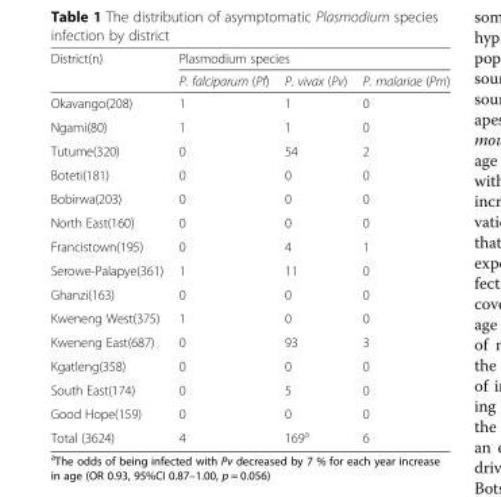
<table><thead><tr><td rowspan="2">District(n)</td><td colspan="3">Plasmodium species</td></tr><tr><td>P. falciparum (Pf)</td><td>P. vivax (Pv)</td><td>P. malariae (Pm)</td></tr></thead><tbody><tr><td>Okavango(208)</td><td>1</td><td>1</td><td>0</td></tr><tr><td>Ngami(80)</td><td>1</td><td>1</td><td>0</td></tr><tr><td>Tutume(320)</td><td>0</td><td>54</td><td>2</td></tr><tr><td>Boteti(181)</td><td>0</td><td>0</td><td>0</td></tr><tr><td>Bobirwa(203)</td><td>0</td><td>0</td><td>0</td></tr><tr><td>North East(160)</td><td>0</td><td>0</td><td>0</td></tr><tr><td>Francistown(195)</td><td>0</td><td>4</td><td>1</td></tr><tr><td>Serowe-Palapye(361)</td><td>1</td><td>11</td><td>0</td></tr><tr><td>Ghanzi(163)</td><td>0</td><td>0</td><td>0</td></tr><tr><td>Kweneng West(375)</td><td>1</td><td>0</td><td>0</td></tr><tr><td>Kweneng East(687)</td><td>0</td><td>93</td><td>3</td></tr><tr><td>Kgatleng(358)</td><td>0</td><td>0</td><td>0</td></tr><tr><td>South East(174)</td><td>0</td><td>5</td><td>0</td></tr><tr><td>Good Hope(159)</td><td>0</td><td>0</td><td>0</td></tr><tr><td>Total (3624)</td><td>4</td><td>169<sup>a</sup></td><td>6</td></tr></tbody></table>